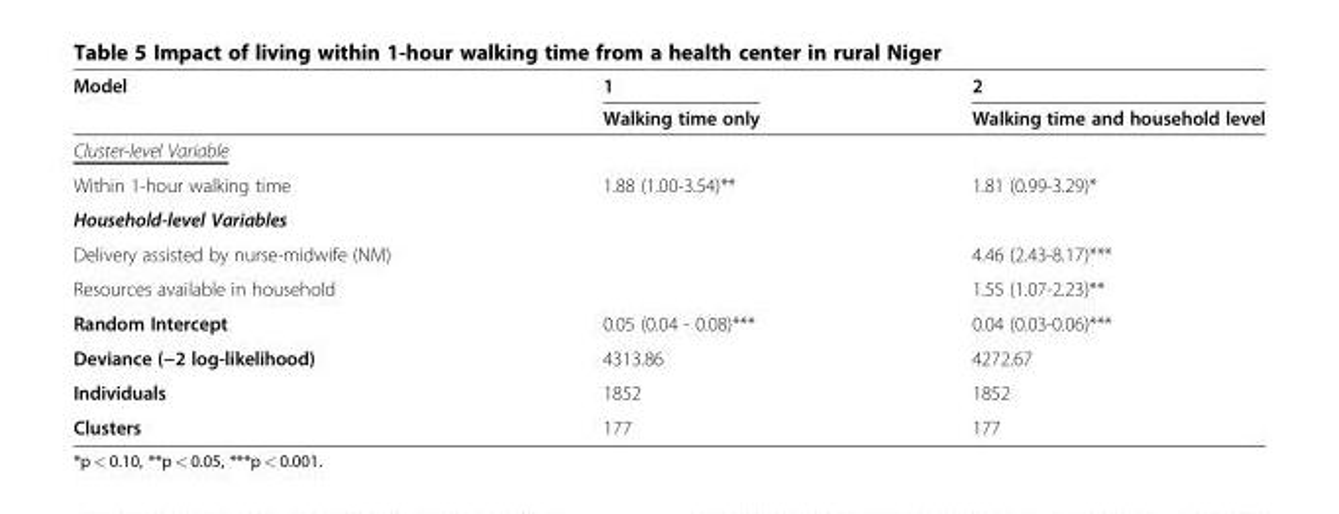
<table><thead><tr><td rowspan="2">Model</td><td rowspan="2">1 Walking time only</td><td rowspan="2">2 Walking time and household level</td></tr><tr></tr></thead><tbody><tr><td colspan="3">Cluster-level Variable</td></tr><tr><td>Within 1-hour walking time</td><td>1.88 (1.00-3.54)**</td><td>1.81 (0.99-3.29)*</td></tr><tr><td colspan="3">Household-level Variables</td></tr><tr><td>Delivery assisted by nurse-midwife (NM)</td><td></td><td>4.46 (2.43-8.17)***</td></tr><tr><td>Resources available in household</td><td></td><td>1.55 (1.07-2.23)**</td></tr><tr><td>Random Intercept</td><td>0.05 (0.04 - 0.08)***</td><td>0.04 (0.03-0.06)***</td></tr><tr><td>Deviance (−2 log-likelihood)</td><td>4313.86</td><td>4272.67</td></tr><tr><td>Individuals</td><td>1852</td><td>1852</td></tr><tr><td>Clusters</td><td>177</td><td>177</td></tr></tbody></table>